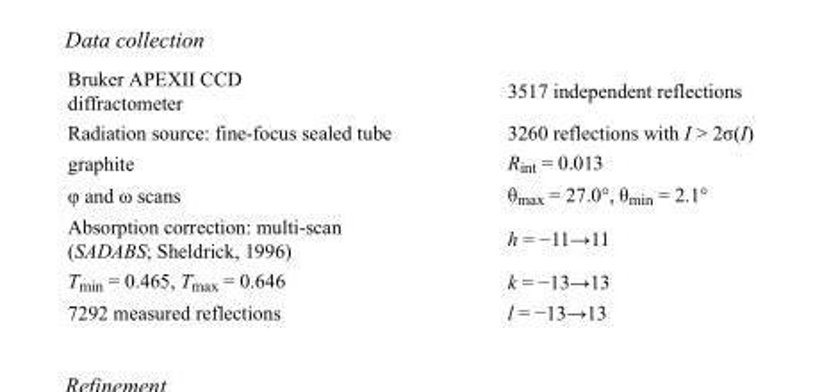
<table><tbody><tr><td>Bruker APEXII CCD diffractometer</td><td>3517 independent reflections</td></tr><tr><td>Radiation source: fine-focus sealed tube</td><td>3260 reflections with I &gt; 2σ(I)</td></tr><tr><td>graphite</td><td>R<sub>int</sub> = 0.013</td></tr><tr><td>φ and ω scans</td><td>θ<sub>max</sub> = 27.0°, θ<sub>min</sub> = 2.1°</td></tr><tr><td>Absorption correction: multi-scan (SADABS; Sheldrick, 1996)</td><td>h = −11→11</td></tr><tr><td>T<sub>min</sub> = 0.465, T<sub>max</sub> = 0.646</td><td>k = −13→13</td></tr><tr><td>7292 measured reflections</td><td>l = −13→13</td></tr></tbody></table>